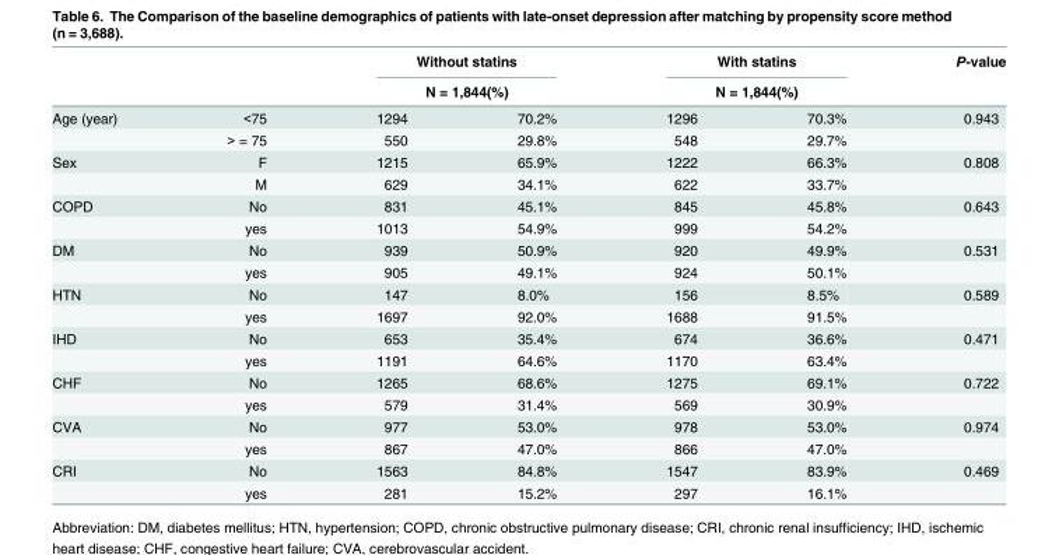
<table><thead><tr><td rowspan="3">Age (year)</td><td rowspan="3">&lt;75</td><td rowspan="2" colspan="2">Without statins N = 1,844(%)</td><td rowspan="2" colspan="2">With statins N = 1,844(%)</td><td rowspan="3">P-value 0.943</td></tr><tr></tr><tr><td>1294</td><td>70.2%</td><td>1296</td><td>70.3%</td></tr></thead><tbody><tr><td></td><td>&gt; = 75</td><td>550</td><td>29.8%</td><td>548</td><td>29.7%</td><td></td></tr><tr><td rowspan="2">Sex</td><td>F</td><td>1215</td><td>65.9%</td><td>1222</td><td>66.3%</td><td>0.808</td></tr><tr><td>M</td><td>629</td><td>34.1%</td><td>622</td><td>33.7%</td><td></td></tr><tr><td rowspan="2">COPD</td><td>No</td><td>831</td><td>45.1%</td><td>845</td><td>45.8%</td><td>0.643</td></tr><tr><td>yes</td><td>1013</td><td>54.9%</td><td>999</td><td>54.2%</td><td></td></tr><tr><td rowspan="2">DM</td><td>No</td><td>939</td><td>50.9%</td><td>920</td><td>49.9%</td><td>0.531</td></tr><tr><td>yes</td><td>905</td><td>49.1%</td><td>924</td><td>50.1%</td><td></td></tr><tr><td rowspan="2">HTN</td><td>No</td><td>147</td><td>8.0%</td><td>156</td><td>8.5%</td><td>0.589</td></tr><tr><td>yes</td><td>1697</td><td>92.0%</td><td>1688</td><td>91.5%</td><td></td></tr><tr><td rowspan="2">IHD</td><td>No</td><td>653</td><td>35.4%</td><td>674</td><td>36.6%</td><td>0.471</td></tr><tr><td>yes</td><td>1191</td><td>64.6%</td><td>1170</td><td>63.4%</td><td></td></tr><tr><td rowspan="2">CHF</td><td>No</td><td>1265</td><td>68.6%</td><td>1275</td><td>69.1%</td><td>0.722</td></tr><tr><td>yes</td><td>579</td><td>31.4%</td><td>569</td><td>30.9%</td><td></td></tr><tr><td rowspan="2">CVA</td><td>No</td><td>977</td><td>53.0%</td><td>978</td><td>53.0%</td><td>0.974</td></tr><tr><td>yes</td><td>867</td><td>47.0%</td><td>866</td><td>47.0%</td><td></td></tr><tr><td rowspan="2">CRI</td><td>No</td><td>1563</td><td>84.8%</td><td>1547</td><td>83.9%</td><td>0.469</td></tr><tr><td>yes</td><td>281</td><td>15.2%</td><td>297</td><td>16.1%</td><td></td></tr></tbody></table>